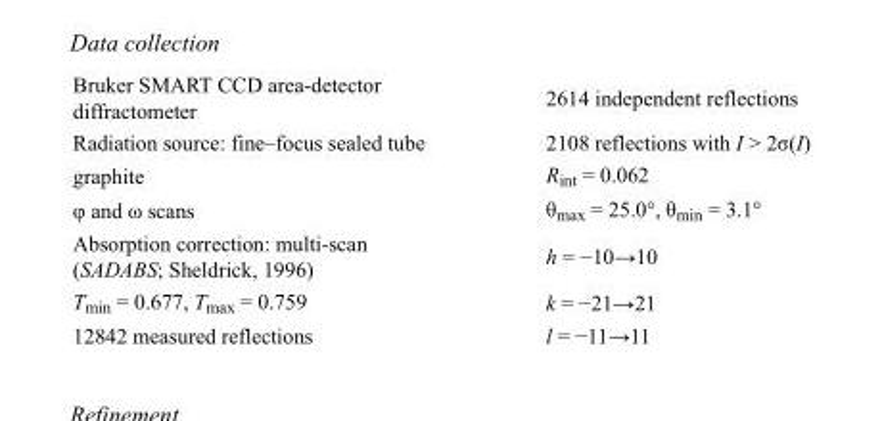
<table><tbody><tr><td>Bruker SMART CCD area-detector diffractometer</td><td>2614 independent reflections</td></tr><tr><td>Radiation source: fine–focus sealed tube</td><td>2108 reflections with I &gt; 2σ(I)</td></tr><tr><td>graphite</td><td>R<sub>int</sub> = 0.062</td></tr><tr><td>φ and ω scans</td><td>θ<sub>max</sub> = 25.0°, θ<sub>min</sub> = 3.1°</td></tr><tr><td>Absorption correction: multi-scan (SADABS; Sheldrick, 1996)</td><td>h = −10→10</td></tr><tr><td>T<sub>min</sub> = 0.677, T<sub>max</sub> = 0.759</td><td>k = −21→21</td></tr><tr><td>12842 measured reflections</td><td>l = −11→11</td></tr></tbody></table>